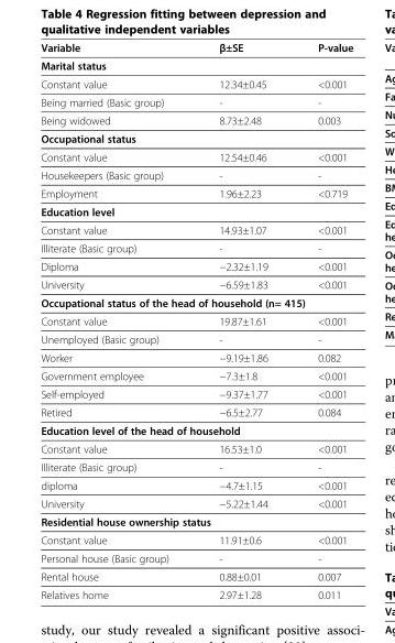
<table><thead><tr><td>Variable</td><td>β±SE</td><td>P-value</td></tr></thead><tbody><tr><td colspan="3">Marital status</td></tr><tr><td>Constant value</td><td>12.34±0.45</td><td>&lt;0.001</td></tr><tr><td>Being married (Basic group)</td><td>-</td><td>-</td></tr><tr><td>Being widowed</td><td>8.73±2.48</td><td>0.003</td></tr><tr><td colspan="3">Occupational status</td></tr><tr><td>Constant value</td><td>12.54±0.46</td><td>&lt;0.001</td></tr><tr><td>Housekeepers (Basic group)</td><td>-</td><td>-</td></tr><tr><td>Employment</td><td>1.96±2.23</td><td>&lt;0.719</td></tr><tr><td colspan="3">Education level</td></tr><tr><td>Constant value</td><td>14.93±1.07</td><td>&lt;0.001</td></tr><tr><td>Illiterate (Basic group)</td><td>-</td><td>-</td></tr><tr><td>Diploma</td><td>−2.32±1.19</td><td>&lt;0.001</td></tr><tr><td>University</td><td>−6.59±1.83</td><td>&lt;0.001</td></tr><tr><td colspan="3">Occupational status of the head of household (n= 415)</td></tr><tr><td>Constant value</td><td>19.87±1.61</td><td>&lt;0.001</td></tr><tr><td>Unemployed (Basic group)</td><td>-</td><td>-</td></tr><tr><td>Worker</td><td>−9.19±1.86</td><td>0.082</td></tr><tr><td>Government employee</td><td>−7.3±1.8</td><td>&lt;0.001</td></tr><tr><td>Self-employed</td><td>−9.37±1.77</td><td>&lt;0.001</td></tr><tr><td>Retired</td><td>−6.5±2.77</td><td>0.084</td></tr><tr><td colspan="3">Education level of the head of household</td></tr><tr><td>Constant value</td><td>16.53±1.0</td><td>&lt;0.001</td></tr><tr><td>Illiterate (Basic group)</td><td>-</td><td>-</td></tr><tr><td>diploma</td><td>−4.7±1.15</td><td>&lt;0.001</td></tr><tr><td>University</td><td>−5.22±1.44</td><td>&lt;0.001</td></tr><tr><td colspan="3">Residential house ownership status</td></tr><tr><td>Constant value</td><td>11.91±0.6</td><td>&lt;0.001</td></tr><tr><td>Personal house (Basic group)</td><td>-</td><td>-</td></tr><tr><td>Rental house</td><td>0.88±0.01</td><td>0.007</td></tr><tr><td>Relatives home</td><td>2.97±1.28</td><td>0.011</td></tr></tbody></table>